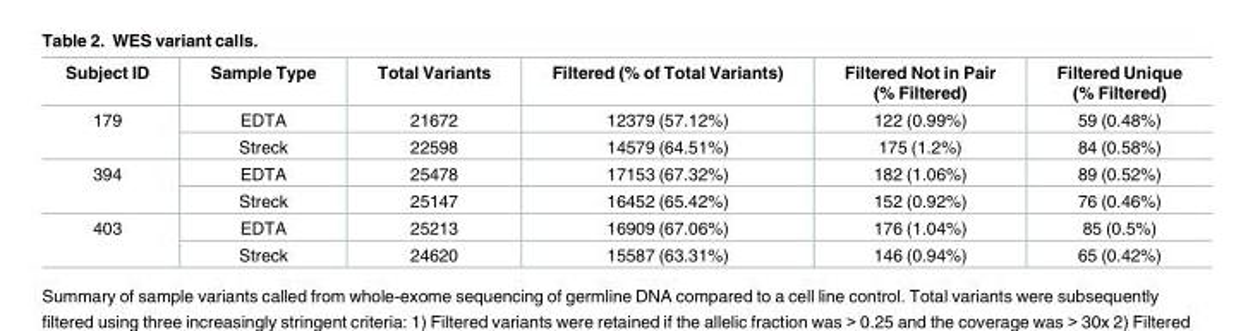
<table><thead><tr><td>Subject ID</td><td>Sample Type</td><td>Total Variants</td><td>Filtered (% of Total Variants)</td><td>Filtered Not in Pair (% Filtered)</td><td>Filtered Unique (% Filtered)</td></tr></thead><tbody><tr><td rowspan="2">179</td><td>EDTA</td><td>21672</td><td>12379 (57.12%)</td><td>122 (0.99%)</td><td>59 (0.48%)</td></tr><tr><td>Streck</td><td>22598</td><td>14579 (64.51%)</td><td>175 (1.2%)</td><td>84 (0.58%)</td></tr><tr><td rowspan="2">394</td><td>EDTA</td><td>25478</td><td>17153 (67.32%)</td><td>182 (1.06%)</td><td>89 (0.52%)</td></tr><tr><td>Streck</td><td>25147</td><td>16452 (65.42%)</td><td>152 (0.92%)</td><td>76 (0.46%)</td></tr><tr><td rowspan="2">403</td><td>EDTA</td><td>25213</td><td>16909 (67.06%)</td><td>176 (1.04%)</td><td>85 (0.5%)</td></tr><tr><td>Streck</td><td>24620</td><td>15587 (63.31%)</td><td>146 (0.94%)</td><td>65 (0.42%)</td></tr></tbody></table>